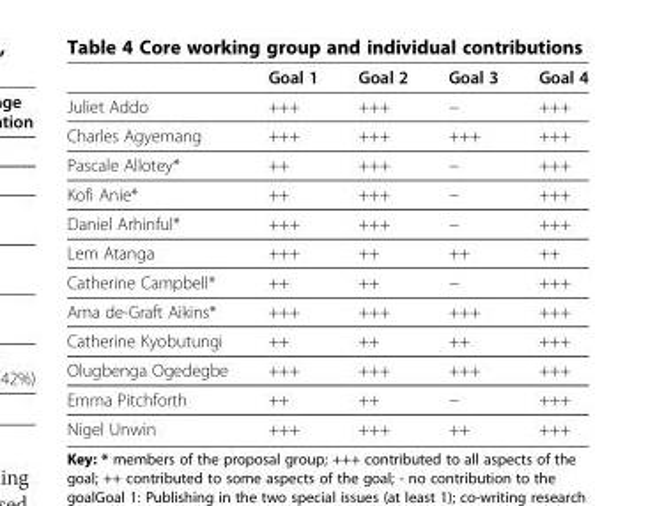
<table><thead><tr><td></td><td>Goal 1</td><td>Goal 2</td><td>Goal 3</td><td>Goal 4</td></tr></thead><tbody><tr><td>Juliet Addo</td><td>+++</td><td>+++</td><td>−</td><td>+++</td></tr><tr><td>Charles Agyemang</td><td>+++</td><td>+++</td><td>+++</td><td>+++</td></tr><tr><td>Pascale Allotey*</td><td>++</td><td>+++</td><td>−</td><td>+++</td></tr><tr><td>Kofi Anie*</td><td>++</td><td>+++</td><td>−</td><td>+++</td></tr><tr><td>Daniel Arhinful*</td><td>+++</td><td>+++</td><td>−</td><td>+++</td></tr><tr><td>Lem Atanga</td><td>+++</td><td>++</td><td>++</td><td>++</td></tr><tr><td>Catherine Campbell*</td><td>++</td><td>++</td><td>−</td><td>+++</td></tr><tr><td>Ama de-Graft Aikins*</td><td>+++</td><td>+++</td><td>+++</td><td>+++</td></tr><tr><td>Catherine Kyobutungi</td><td>++</td><td>++</td><td>++</td><td>+++</td></tr><tr><td>Olugbenga Ogedegbe</td><td>+++</td><td>+++</td><td>+++</td><td>+++</td></tr><tr><td>Emma Pitchforth</td><td>++</td><td>++</td><td>−</td><td>+++</td></tr><tr><td>Nigel Unwin</td><td>+++</td><td>+++</td><td>++</td><td>+++</td></tr></tbody></table>